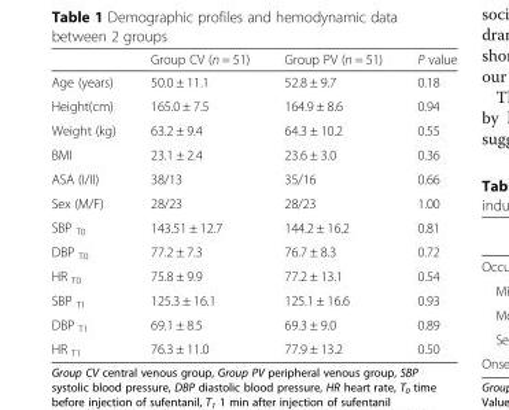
<table><thead><tr><td></td><td>Group CV (n = 51)</td><td>Group PV (n = 51)</td><td>P value</td></tr></thead><tbody><tr><td>Age (years)</td><td>50.0 ± 11.1</td><td>52.8 ± 9.7</td><td>0.18</td></tr><tr><td>Height(cm)</td><td>165.0 ± 7.5</td><td>164.9 ± 8.6</td><td>0.94</td></tr><tr><td>Weight (kg)</td><td>63.2 ± 9.4</td><td>64.3 ± 10.2</td><td>0.55</td></tr><tr><td>BMI</td><td>23.1 ± 2.4</td><td>23.6 ± 3.0</td><td>0.36</td></tr><tr><td>ASA (I/II)</td><td>38/13</td><td>35/16</td><td>0.66</td></tr><tr><td>Sex (M/F)</td><td>28/23</td><td>28/23</td><td>1.00</td></tr><tr><td>SBP T0</td><td>143.51 ± 12.7</td><td>144.2 ± 16.2</td><td>0.81</td></tr><tr><td>DBP T0</td><td>77.2 ± 7.3</td><td>76.7 ± 8.3</td><td>0.72</td></tr><tr><td>HR T0</td><td>75.8 ± 9.9</td><td>77.2 ± 13.1</td><td>0.54</td></tr><tr><td>SBP T1</td><td>125.3 ± 16.1</td><td>125.1 ± 16.6</td><td>0.93</td></tr><tr><td>DBP T1</td><td>69.1 ± 8.5</td><td>69.3 ± 9.0</td><td>0.89</td></tr><tr><td>HR T1</td><td>76.3 ± 11.0</td><td>77.9 ± 13.2</td><td>0.50</td></tr></tbody></table>